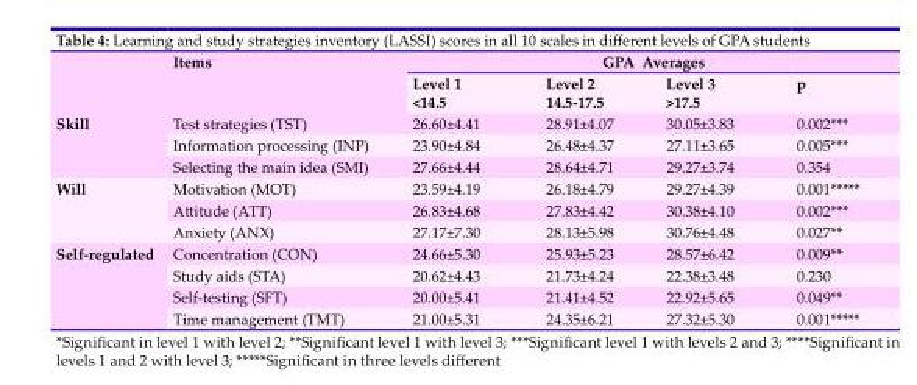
<table><thead><tr><td rowspan="2"></td><td rowspan="2">Items</td><td colspan="4">GPA Averages</td></tr><tr><td>Level 1 &lt;14.5</td><td>Level 2 14.5-17.5</td><td>Level 3 &gt;17.5</td><td>p</td></tr></thead><tbody><tr><td rowspan="3">Skill</td><td>Test strategies (TST)</td><td>26.60±4.41</td><td>28.91±4.07</td><td>30.05±3.83</td><td>0.002***</td></tr><tr><td>Information processing (INP)</td><td>23.90±4.84</td><td>26.48±4.37</td><td>27.11±3.65</td><td>0.005***</td></tr><tr><td>Selecting the main idea (SMI)</td><td>27.66±4.44</td><td>28.64±4.71</td><td>29.27±3.74</td><td>0.354</td></tr><tr><td rowspan="3">Will</td><td>Motivation (MOT)</td><td>23.59±4.19</td><td>26.18±4.79</td><td>29.27±4.39</td><td>0.001*****</td></tr><tr><td>Attitude (ATT)</td><td>26.83±4.68</td><td>27.83±4.42</td><td>30.38±4.10</td><td>0.002***</td></tr><tr><td>Anxiety (ANX)</td><td>27.17±7.30</td><td>28.13±5.98</td><td>30.76±4.48</td><td>0.027**</td></tr><tr><td rowspan="4">Self-regulated</td><td>Concentration (CON)</td><td>24.66±5.30</td><td>25.93±5.23</td><td>28.57±6.42</td><td>0.009**</td></tr><tr><td>Study aids (STA)</td><td>20.62±4.43</td><td>21.73±4.24</td><td>22.38±3.48</td><td>0.230</td></tr><tr><td>Self-testing (SFT)</td><td>20.00±5.41</td><td>21.41±4.52</td><td>22.92±5.65</td><td>0.049**</td></tr><tr><td>Time management (TMT)</td><td>21.00±5.31</td><td>24.35±6.21</td><td>27.32±5.30</td><td>0.001*****</td></tr></tbody></table>